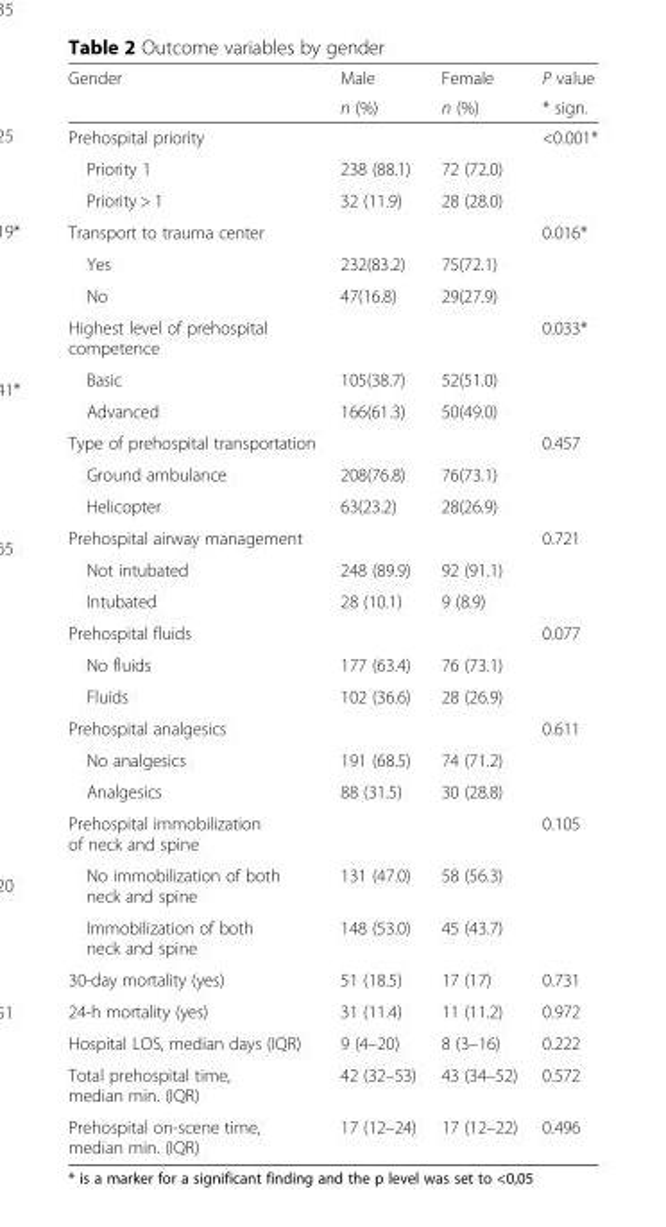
<table><thead><tr><td rowspan="2">Gender</td><td rowspan="2">Male n (%)</td><td rowspan="2">Female n (%)</td><td rowspan="2">P value * sign.</td></tr><tr></tr></thead><tbody><tr><td>Prehospital priority</td><td></td><td></td><td>&lt;0.001*</td></tr><tr><td>Priority 1</td><td>238 (88.1)</td><td>72 (72.0)</td><td></td></tr><tr><td>Priority &gt; 1</td><td>32 (11.9)</td><td>28 (28.0)</td><td></td></tr><tr><td>Transport to trauma center</td><td></td><td></td><td>0.016*</td></tr><tr><td>Yes</td><td>232(83.2)</td><td>75(72.1)</td><td></td></tr><tr><td>No</td><td>47(16.8)</td><td>29(27.9)</td><td></td></tr><tr><td>Highest level of prehospital competence</td><td></td><td></td><td>0.033*</td></tr><tr><td>Basic</td><td>105(38.7)</td><td>52(51.0)</td><td></td></tr><tr><td>Advanced</td><td>166(61.3)</td><td>50(49.0)</td><td></td></tr><tr><td>Type of prehospital transportation</td><td></td><td></td><td>0.457</td></tr><tr><td>Ground ambulance</td><td>208(76.8)</td><td>76(73.1)</td><td></td></tr><tr><td>Helicopter</td><td>63(23.2)</td><td>28(26.9)</td><td></td></tr><tr><td>Prehospital airway management</td><td></td><td></td><td>0.721</td></tr><tr><td>Not intubated</td><td>248 (89.9)</td><td>92 (91.1)</td><td></td></tr><tr><td>Intubated</td><td>28 (10.1)</td><td>9 (8.9)</td><td></td></tr><tr><td>Prehospital fluids</td><td></td><td></td><td>0.077</td></tr><tr><td>No fluids</td><td>177 (63.4)</td><td>76 (73.1)</td><td></td></tr><tr><td>Fluids</td><td>102 (36.6)</td><td>28 (26.9)</td><td></td></tr><tr><td>Prehospital analgesics</td><td></td><td></td><td>0.611</td></tr><tr><td>No analgesics</td><td>191 (68.5)</td><td>74 (71.2)</td><td></td></tr><tr><td>Analgesics</td><td>88 (31.5)</td><td>30 (28.8)</td><td></td></tr><tr><td>Prehospital immobilization of neck and spine</td><td></td><td></td><td>0.105</td></tr><tr><td>No immobilization of both neck and spine</td><td>131 (47.0)</td><td>58 (56.3)</td><td></td></tr><tr><td>Immobilization of both neck and spine</td><td>148 (53.0)</td><td>45 (43.7)</td><td></td></tr><tr><td>30-day mortality (yes)</td><td>51 (18.5)</td><td>17 (17)</td><td>0.731</td></tr><tr><td>24-h mortality (yes)</td><td>31 (11.4)</td><td>11 (11.2)</td><td>0.972</td></tr><tr><td>Hospital LOS, median days (IQR)</td><td>9 (4–20)</td><td>8 (3–16)</td><td>0.222</td></tr><tr><td>Total prehospital time, median min. (IQR)</td><td>42 (32–53)</td><td>43 (34–52)</td><td>0.572</td></tr><tr><td>Prehospital on-scene time, median min. (IQR)</td><td>17 (12–24)</td><td>17 (12–22)</td><td>0.496</td></tr></tbody></table>